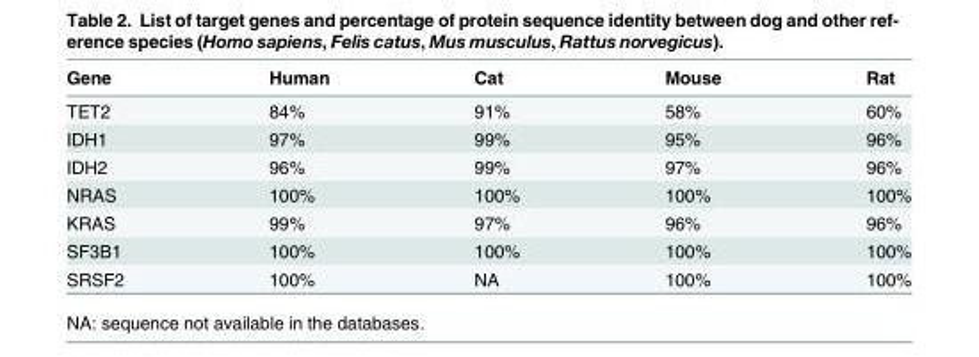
<table><thead><tr><td>Gene</td><td>Human</td><td>Cat</td><td>Mouse</td><td>Rat</td></tr></thead><tbody><tr><td>TET2</td><td>84%</td><td>91%</td><td>58%</td><td>60%</td></tr><tr><td>IDH1</td><td>97%</td><td>99%</td><td>95%</td><td>96%</td></tr><tr><td>IDH2</td><td>96%</td><td>99%</td><td>97%</td><td>96%</td></tr><tr><td>NRAS</td><td>100%</td><td>100%</td><td>100%</td><td>100%</td></tr><tr><td>KRAS</td><td>99%</td><td>97%</td><td>96%</td><td>96%</td></tr><tr><td>SF3B1</td><td>100%</td><td>100%</td><td>100%</td><td>100%</td></tr><tr><td>SRSF2</td><td>100%</td><td>NA</td><td>100%</td><td>100%</td></tr></tbody></table>